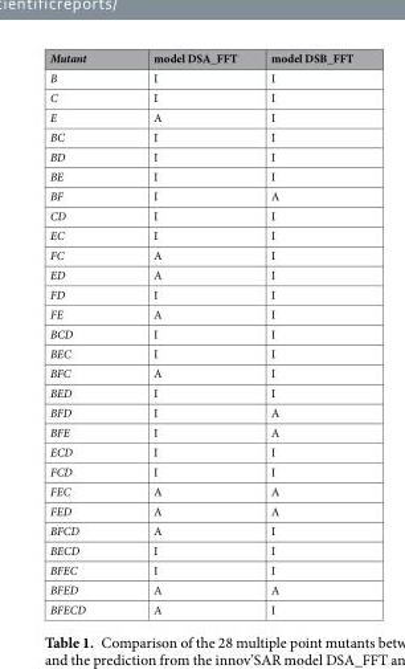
<table><thead><tr><td>Mutant</td><td>model DSA_FFT</td><td>model DSB_FFT</td></tr></thead><tbody><tr><td>B</td><td>I</td><td>I</td></tr><tr><td>C</td><td>I</td><td>I</td></tr><tr><td>E</td><td>A</td><td>I</td></tr><tr><td>BC</td><td>I</td><td>I</td></tr><tr><td>BD</td><td>I</td><td>I</td></tr><tr><td>BE</td><td>I</td><td>I</td></tr><tr><td>BF</td><td>I</td><td>A</td></tr><tr><td>CD</td><td>I</td><td>I</td></tr><tr><td>EC</td><td>I</td><td>I</td></tr><tr><td>FC</td><td>A</td><td>I</td></tr><tr><td>ED</td><td>A</td><td>I</td></tr><tr><td>FD</td><td>I</td><td>I</td></tr><tr><td>FE</td><td>A</td><td>I</td></tr><tr><td>BCD</td><td>I</td><td>I</td></tr><tr><td>BEC</td><td>I</td><td>I</td></tr><tr><td>BFC</td><td>A</td><td>I</td></tr><tr><td>BED</td><td>I</td><td>I</td></tr><tr><td>BFD</td><td>I</td><td>A</td></tr><tr><td>BFE</td><td>I</td><td>A</td></tr><tr><td>ECD</td><td>I</td><td>I</td></tr><tr><td>FCD</td><td>I</td><td>I</td></tr><tr><td>FEC</td><td>A</td><td>A</td></tr><tr><td>FED</td><td>A</td><td>A</td></tr><tr><td>BFCD</td><td>A</td><td>I</td></tr><tr><td>BECD</td><td>I</td><td>I</td></tr><tr><td>BFEC</td><td>I</td><td>I</td></tr><tr><td>BFED</td><td>A</td><td>A</td></tr><tr><td>BFECD</td><td>A</td><td>I</td></tr></tbody></table>